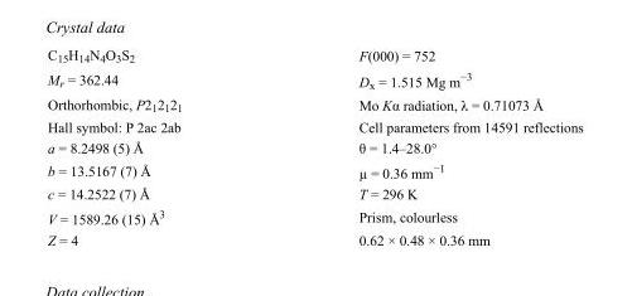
<table><tbody><tr><td>C<sub>15</sub>H<sub>14</sub>N<sub>4</sub>O<sub>3</sub>S<sub>2</sub></td><td>F(000) = 752</td></tr><tr><td>M<sub>r</sub> = 362.44</td><td>D<sub>x</sub> = 1.515 Mg m<sup>−3</sup></td></tr><tr><td>Orthorhombic, P2<sub>1</sub>2<sub>1</sub>2<sub>1</sub></td><td>Mo Kα radiation, λ = 0.71073 Å</td></tr><tr><td>Hall symbol: P 2ac 2ab</td><td>Cell parameters from 14591 reflections</td></tr><tr><td>a = 8.2498 (5) Å</td><td>θ = 1.4–28.0°</td></tr><tr><td>b = 13.5167 (7) Å</td><td>µ = 0.36 mm<sup>−1</sup></td></tr><tr><td>c = 14.2522 (7) Å</td><td>T = 296 K</td></tr><tr><td>V = 1589.26 (15) Å<sup>3</sup></td><td>Prism, colourless</td></tr><tr><td>Z = 4</td><td>0.62 × 0.48 × 0.36 mm</td></tr></tbody></table>